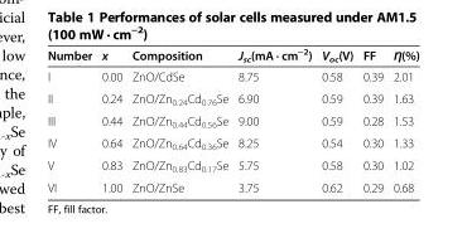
<table><thead><tr><td>Number</td><td>x</td><td>Composition</td><td>J<sub>sc</sub>(mA · cm<sup>−2</sup>)</td><td>V<sub>oc</sub>(V)</td><td>FF</td><td>Ƞ(%)</td></tr></thead><tbody><tr><td>I</td><td>0.00</td><td>ZnO/CdSe</td><td>8.75</td><td>0.58</td><td>0.39</td><td>2.01</td></tr><tr><td>II</td><td>0.24</td><td>ZnO/Zn<sub>0.24</sub>Cd<sub>0.76</sub>Se</td><td>6.90</td><td>0.59</td><td>0.39</td><td>1.63</td></tr><tr><td>III</td><td>0.44</td><td>ZnO/Zn<sub>0.44</sub>Cd<sub>0.56</sub>Se</td><td>9.00</td><td>0.59</td><td>0.28</td><td>1.53</td></tr><tr><td>IV</td><td>0.64</td><td>ZnO/Zn<sub>0.64</sub>Cd<sub>0.36</sub>Se</td><td>8.25</td><td>0.54</td><td>0.30</td><td>1.33</td></tr><tr><td>V</td><td>0.83</td><td>ZnO/Zn<sub>0.83</sub>Cd<sub>0.17</sub>Se</td><td>5.75</td><td>0.58</td><td>0.30</td><td>1.02</td></tr><tr><td>VI</td><td>1.00</td><td>ZnO/ZnSe</td><td>3.75</td><td>0.62</td><td>0.29</td><td>0.68</td></tr></tbody></table>